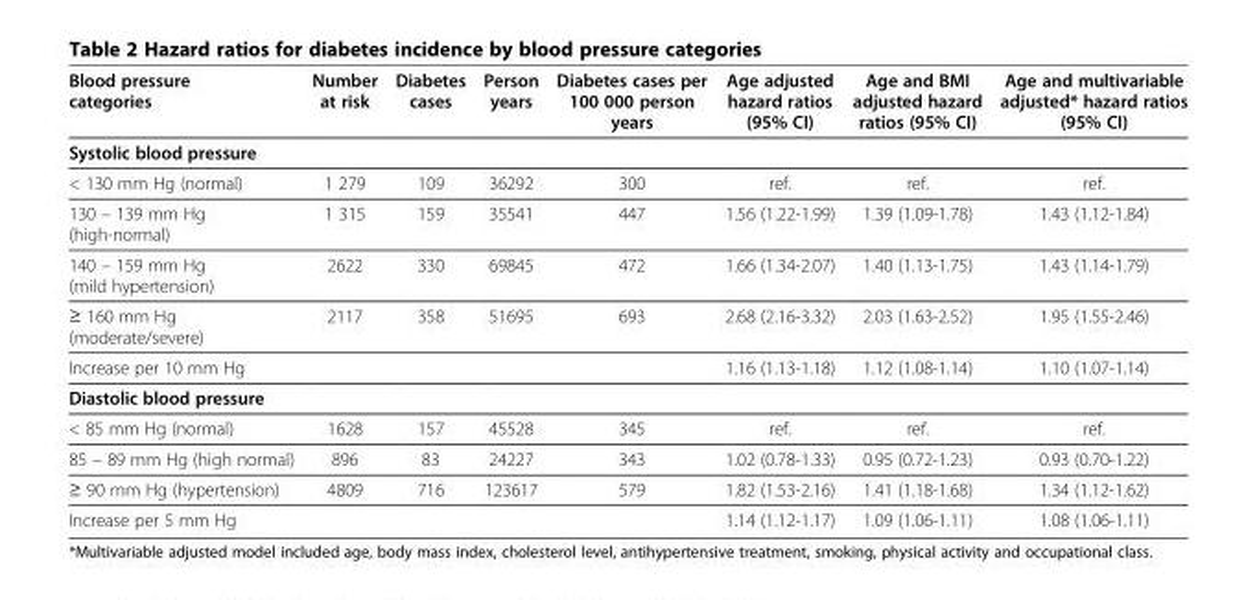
<table><thead><tr><td>Blood pressure categories</td><td>Number at risk</td><td>Diabetes cases</td><td>Person years</td><td>Diabetes cases per 100 000 person years</td><td>Age adjusted hazard ratios (95% CI)</td><td>Age and BMI adjusted hazard ratios (95% CI)</td><td>Age and multivariable adjusted* hazard ratios (95% CI)</td></tr></thead><tbody><tr><td colspan="8">Systolic blood pressure</td></tr><tr><td>&lt; 130 mm Hg (normal)</td><td>1 279</td><td>109</td><td>36292</td><td>300</td><td>ref.</td><td>ref.</td><td>ref.</td></tr><tr><td>130 – 139 mm Hg (high-normal)</td><td>1 315</td><td>159</td><td>35541</td><td>447</td><td>1.56 (1.22-1.99)</td><td>1.39 (1.09-1.78)</td><td>1.43 (1.12-1.84)</td></tr><tr><td>140 – 159 mm Hg (mild hypertension)</td><td>2622</td><td>330</td><td>69845</td><td>472</td><td>1.66 (1.34-2.07)</td><td>1.40 (1.13-1.75)</td><td>1.43 (1.14-1.79)</td></tr><tr><td>≥ 160 mm Hg (moderate/severe)</td><td>2117</td><td>358</td><td>51695</td><td>693</td><td>2.68 (2.16-3.32)</td><td>2.03 (1.63-2.52)</td><td>1.95 (1.55-2.46)</td></tr><tr><td>Increase per 10 mm Hg</td><td></td><td></td><td></td><td></td><td>1.16 (1.13-1.18)</td><td>1.12 (1.08-1.14)</td><td>1.10 (1.07-1.14)</td></tr><tr><td colspan="8">Diastolic blood pressure</td></tr><tr><td>&lt; 85 mm Hg (normal)</td><td>1628</td><td>157</td><td>45528</td><td>345</td><td>ref.</td><td>ref.</td><td>ref.</td></tr><tr><td>85 – 89 mm Hg (high normal)</td><td>896</td><td>83</td><td>24227</td><td>343</td><td>1.02 (0.78-1.33)</td><td>0.95 (0.72-1.23)</td><td>0.93 (0.70-1.22)</td></tr><tr><td>≥ 90 mm Hg (hypertension)</td><td>4809</td><td>716</td><td>123617</td><td>579</td><td>1.82 (1.53-2.16)</td><td>1.41 (1.18-1.68)</td><td>1.34 (1.12-1.62)</td></tr><tr><td>Increase per 5 mm Hg</td><td></td><td></td><td></td><td></td><td>1.14 (1.12-1.17)</td><td>1.09 (1.06-1.11)</td><td>1.08 (1.06-1.11)</td></tr></tbody></table>